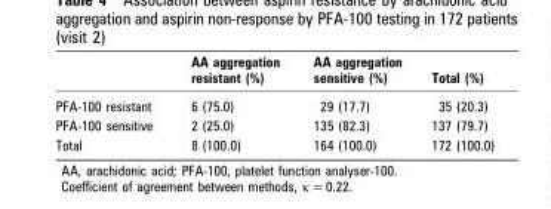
<table><thead><tr><td></td><td>AA aggregation resistant (%)</td><td>AA aggregation sensitive (%)</td><td>Total (%)</td></tr></thead><tbody><tr><td>PFA-100 resistant</td><td>6 (75.0)</td><td>29 (17.7)</td><td>35 (20.3)</td></tr><tr><td>PFA-100 sensitive</td><td>2 (25.0)</td><td>135 (82.3)</td><td>137 (79.7)</td></tr><tr><td>Total</td><td>8 (100.0)</td><td>164 (100.0)</td><td>172 (100.0)</td></tr></tbody></table>